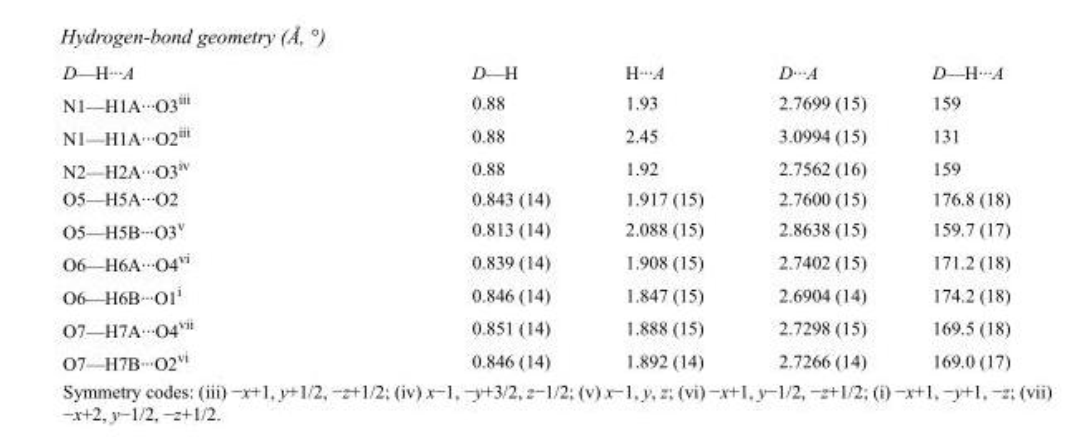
<table><tbody><tr><td>D—H···A</td><td>D—H</td><td>H···A</td><td>D···A</td><td>D—H···A</td></tr><tr><td>N1—H1A···O3<sup>iii</sup></td><td>0.88</td><td>1.93</td><td>2.7699 (15)</td><td>159</td></tr><tr><td>N1—H1A···O2<sup>iii</sup></td><td>0.88</td><td>2.45</td><td>3.0994 (15)</td><td>131</td></tr><tr><td>N2—H2A···O3<sup>iv</sup></td><td>0.88</td><td>1.92</td><td>2.7562 (16)</td><td>159</td></tr><tr><td>O5—H5A···O2</td><td>0.843 (14)</td><td>1.917 (15)</td><td>2.7600 (15)</td><td>176.8 (18)</td></tr><tr><td>O5—H5B···O3<sup>v</sup></td><td>0.813 (14)</td><td>2.088 (15)</td><td>2.8638 (15)</td><td>159.7 (17)</td></tr><tr><td>O6—H6A···O4<sup>vi</sup></td><td>0.839 (14)</td><td>1.908 (15)</td><td>2.7402 (15)</td><td>171.2 (18)</td></tr><tr><td>O6—H6B···O1<sup>i</sup></td><td>0.846 (14)</td><td>1.847 (15)</td><td>2.6904 (14)</td><td>174.2 (18)</td></tr><tr><td>O7—H7A···O4<sup>vii</sup></td><td>0.851 (14)</td><td>1.888 (15)</td><td>2.7298 (15)</td><td>169.5 (18)</td></tr><tr><td>O7—H7B···O2<sup>vi</sup></td><td>0.846 (14)</td><td>1.892 (14)</td><td>2.7266 (14)</td><td>169.0 (17)</td></tr></tbody></table>